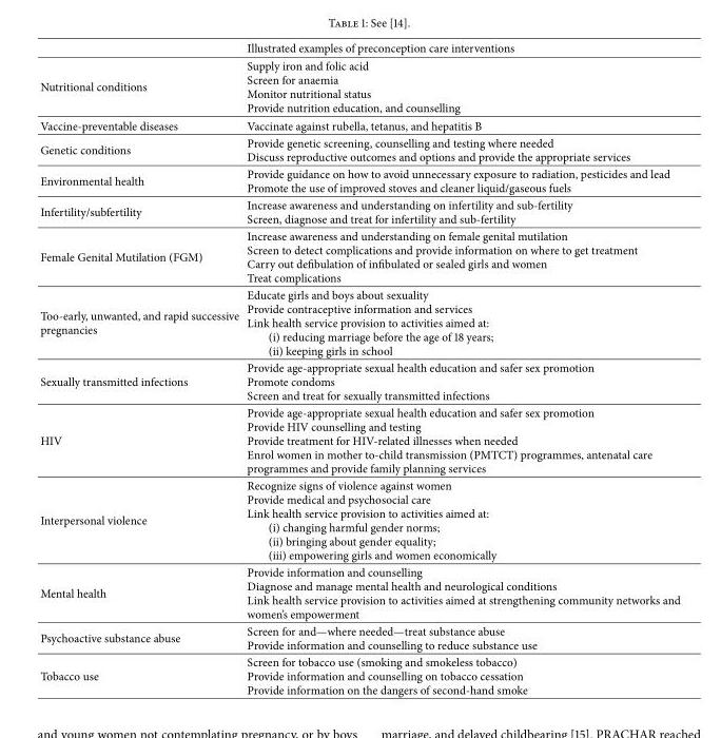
<table><thead><tr><td></td><td>Illustrated examples of preconception care interventions</td></tr></thead><tbody><tr><td>Nutritional conditions</td><td>Supply iron and folic acid Screen for anaemia Monitor nutritional status Provide nutrition education, and counselling</td></tr><tr><td>Vaccine-preventable diseases</td><td>Vaccinate against rubella, tetanus, and hepatitis B</td></tr><tr><td>Genetic conditions</td><td>Provide genetic screening, counselling and testing where needed Discuss reproductive outcomes and options and provide the appropriate services</td></tr><tr><td>Environmental health</td><td>Provide guidance on how to avoid unnecessary exposure to radiation, pesticides and lead Promote the use of improved stoves and cleaner liquid/gaseous fuels</td></tr><tr><td>Infertility/subfertility</td><td>Increase awareness and understanding on infertility and sub-fertility Screen, diagnose and treat for infertility and sub-fertility</td></tr><tr><td>Female Genital Mutilation (FGM)</td><td>Increase awareness and understanding on female genital mutilation Screen to detect complications and provide information on where to get treatment Carry out defibulation of infibulated or sealed girls and women Treat complications</td></tr><tr><td>Too-early, unwanted, and rapid successive pregnancies</td><td>Educate girls and boys about sexuality Provide contraceptive information and services Link health service provision to activities aimed at: (i) reducing marriage before the age of 18 years; (ii) keeping girls in school</td></tr><tr><td>Sexually transmitted infections</td><td>Provide age-appropriate sexual health education and safer sex promotion Promote condoms Screen and treat for sexually transmitted infections</td></tr><tr><td>HIV</td><td>Provide age-appropriate sexual health education and safer sex promotion Provide HIV counselling and testing Provide treatment for HIV-related illnesses when needed Enrol women in mother to-child transmission (PMTCT) programmes, antenatal care programmes and provide family planning services</td></tr><tr><td>Interpersonal violence</td><td>Recognize signs of violence against women Provide medical and psychosocial care Link health service provision to activities aimed at: (i) changing harmful gender norms; (ii) bringing about gender equality; (iii) empowering girls and women economically</td></tr><tr><td>Mental health</td><td>Provide information and counselling Diagnose and manage mental health and neurological conditions Link health service provision to activities aimed at strengthening community networks and women’s empowerment</td></tr><tr><td>Psychoactive substance abuse</td><td>Screen for and—where needed—treat substance abuse Provide information and counselling to reduce substance use</td></tr><tr><td>Tobacco use</td><td>Screen for tobacco use (smoking and smokeless tobacco) Provide information and counselling on tobacco cessation Provide information on the dangers of second-hand smoke</td></tr></tbody></table>